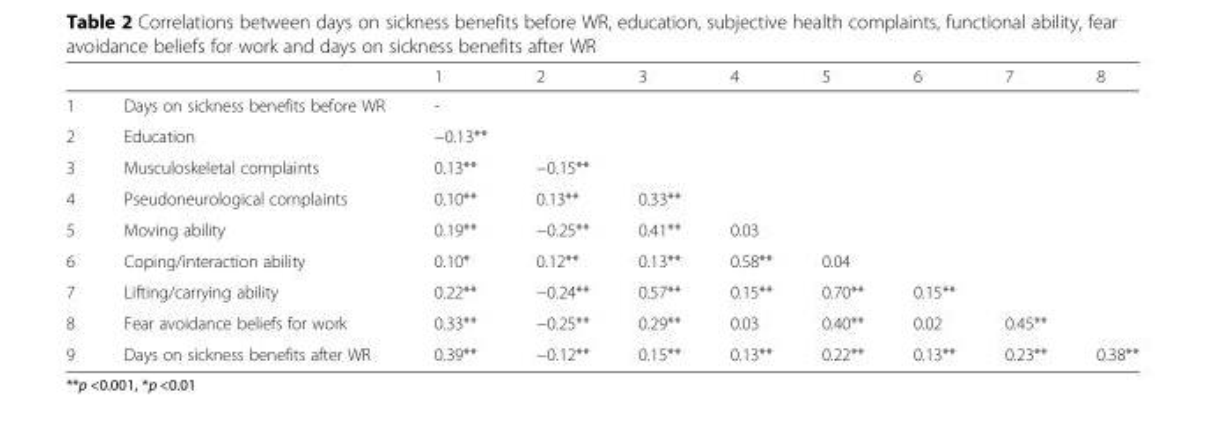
<table><thead><tr><td></td><td></td><td>1</td><td>2</td><td>3</td><td>4</td><td>5</td><td>6</td><td>7</td><td>8</td></tr></thead><tbody><tr><td>1</td><td>Days on sickness benefits before WR</td><td>-</td><td></td><td></td><td></td><td></td><td></td><td></td><td></td></tr><tr><td>2</td><td>Education</td><td>−0.13**</td><td></td><td></td><td></td><td></td><td></td><td></td><td></td></tr><tr><td>3</td><td>Musculoskeletal complaints</td><td>0.13**</td><td>−0.15**</td><td></td><td></td><td></td><td></td><td></td><td></td></tr><tr><td>4</td><td>Pseudoneurological complaints</td><td>0.10**</td><td>0.13**</td><td>0.33**</td><td></td><td></td><td></td><td></td><td></td></tr><tr><td>5</td><td>Moving ability</td><td>0.19**</td><td>−0.25**</td><td>0.41**</td><td>0.03</td><td></td><td></td><td></td><td></td></tr><tr><td>6</td><td>Coping/interaction ability</td><td>0.10*</td><td>0.12**</td><td>0.13**</td><td>0.58**</td><td>0.04</td><td></td><td></td><td></td></tr><tr><td>7</td><td>Lifting/carrying ability</td><td>0.22**</td><td>−0.24**</td><td>0.57**</td><td>0.15**</td><td>0.70**</td><td>0.15**</td><td></td><td></td></tr><tr><td>8</td><td>Fear avoidance beliefs for work</td><td>0.33**</td><td>−0.25**</td><td>0.29**</td><td>0.03</td><td>0.40**</td><td>0.02</td><td>0.45**</td><td></td></tr><tr><td>9</td><td>Days on sickness benefits after WR</td><td>0.39**</td><td>−0.12**</td><td>0.15**</td><td>0.13**</td><td>0.22**</td><td>0.13**</td><td>0.23**</td><td>0.38**</td></tr></tbody></table>